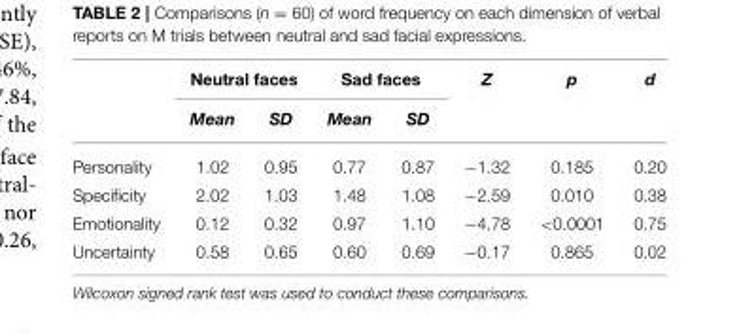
<table><thead><tr><td rowspan="2"></td><td colspan="2">Neutral faces</td><td colspan="2">Sad faces</td><td rowspan="2">Z</td><td rowspan="2">p</td><td rowspan="2">d</td></tr><tr><td>Mean</td><td>SD</td><td>Mean</td><td>SD</td></tr></thead><tbody><tr><td>Personality</td><td>1.02</td><td>0.95</td><td>0.77</td><td>0.87</td><td>−1.32</td><td>0.185</td><td>0.20</td></tr><tr><td>Specificity</td><td>2.02</td><td>1.03</td><td>1.48</td><td>1.08</td><td>−2.59</td><td>0.010</td><td>0.38</td></tr><tr><td>Emotionality</td><td>0.12</td><td>0.32</td><td>0.97</td><td>1.10</td><td>−4.78</td><td>&lt;0.0001</td><td>0.75</td></tr><tr><td>Uncertainty</td><td>0.58</td><td>0.65</td><td>0.60</td><td>0.69</td><td>−0.17</td><td>0.865</td><td>0.02</td></tr></tbody></table>